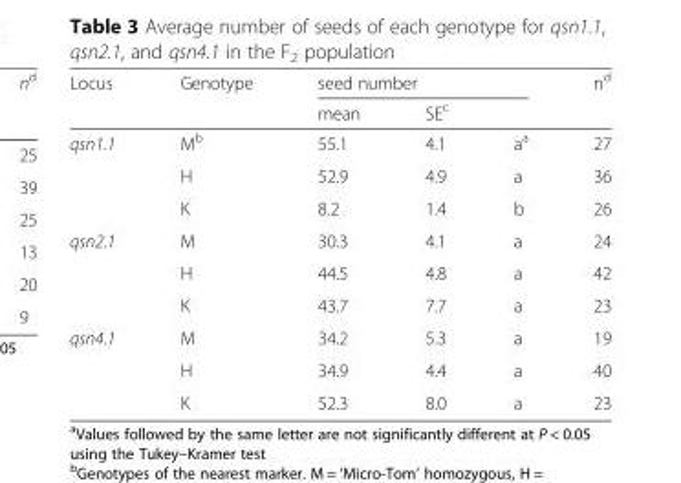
<table><thead><tr><td rowspan="2">Locus</td><td rowspan="2">Genotype</td><td colspan="3">seed number</td><td rowspan="2">n<sup>d</sup></td></tr><tr><td>mean</td><td>SE<sup>c</sup></td><td></td></tr></thead><tbody><tr><td rowspan="3">qsn1.1</td><td>M<sup>b</sup></td><td>55.1</td><td>4.1</td><td>a<sup>a</sup></td><td>27</td></tr><tr><td>H</td><td>52.9</td><td>4.9</td><td>a</td><td>36</td></tr><tr><td>K</td><td>8.2</td><td>1.4</td><td>b</td><td>26</td></tr><tr><td rowspan="3">qsn2.1</td><td>M</td><td>30.3</td><td>4.1</td><td>a</td><td>24</td></tr><tr><td>H</td><td>44.5</td><td>4.8</td><td>a</td><td>42</td></tr><tr><td>K</td><td>43.7</td><td>7.7</td><td>a</td><td>23</td></tr><tr><td rowspan="3">qsn4.1</td><td>M</td><td>34.2</td><td>5.3</td><td>a</td><td>19</td></tr><tr><td>H</td><td>34.9</td><td>4.4</td><td>a</td><td>40</td></tr><tr><td>K</td><td>52.3</td><td>8.0</td><td>a</td><td>23</td></tr></tbody></table>